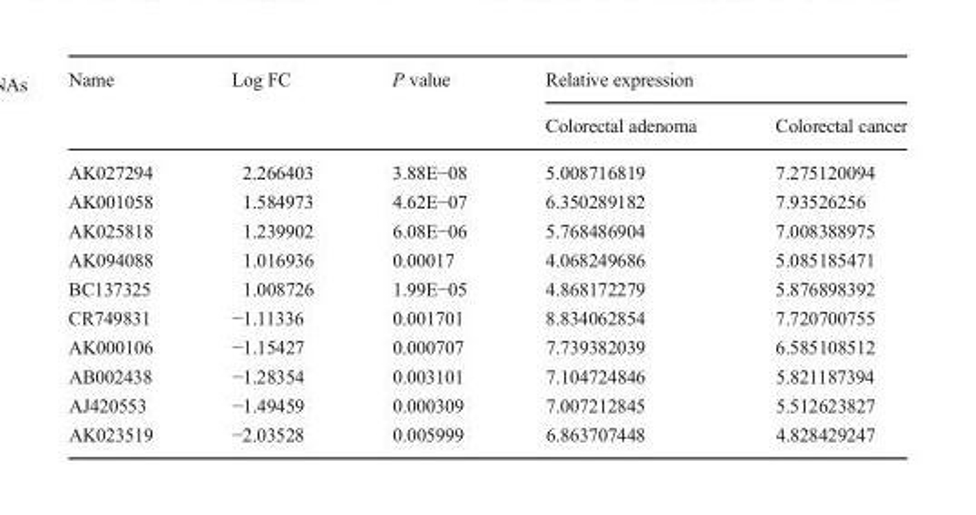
<table><thead><tr><td rowspan="2">Name</td><td rowspan="2">Log FC</td><td rowspan="2">P value</td><td colspan="2">Relative expression</td></tr><tr><td>Colorectal adenoma</td><td>Colorectal cancer</td></tr></thead><tbody><tr><td>AK027294</td><td>2.266403</td><td>3.88E−08</td><td>5.008716819</td><td>7.275120094</td></tr><tr><td>AK001058</td><td>1.584973</td><td>4.62E−07</td><td>6.350289182</td><td>7.93526256</td></tr><tr><td>AK025818</td><td>1.239902</td><td>6.08E−06</td><td>5.768486904</td><td>7.008388975</td></tr><tr><td>AK094088</td><td>1.016936</td><td>0.00017</td><td>4.068249686</td><td>5.085185471</td></tr><tr><td>BC137325</td><td>1.008726</td><td>1.99E−05</td><td>4.868172279</td><td>5.876898392</td></tr><tr><td>CR749831</td><td>−1.11336</td><td>0.001701</td><td>8.834062854</td><td>7.720700755</td></tr><tr><td>AK000106</td><td>−1.15427</td><td>0.000707</td><td>7.739382039</td><td>6.585108512</td></tr><tr><td>AB002438</td><td>−1.28354</td><td>0.003101</td><td>7.104724846</td><td>5.821187394</td></tr><tr><td>AJ420553</td><td>−1.49459</td><td>0.000309</td><td>7.007212845</td><td>5.512623827</td></tr><tr><td>AK023519</td><td>−2.03528</td><td>0.005999</td><td>6.863707448</td><td>4.828429247</td></tr></tbody></table>